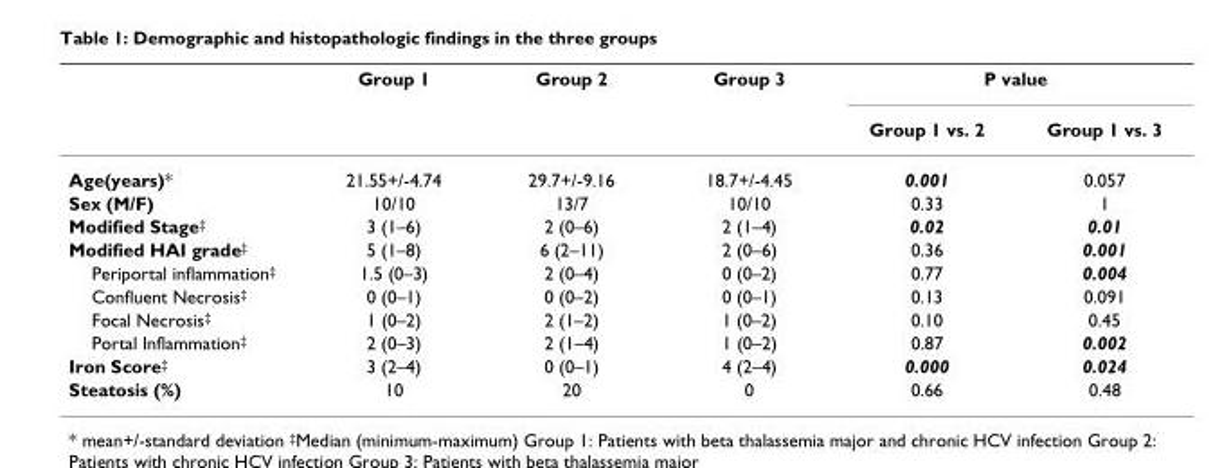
<table><thead><tr><td rowspan="2"></td><td rowspan="2">Group 1</td><td rowspan="2">Group 2</td><td rowspan="2">Group 3</td><td colspan="2">P value</td></tr><tr><td>Group 1 vs. 2</td><td>Group 1 vs. 3</td></tr></thead><tbody><tr><td>Age(years)*</td><td>21.55+/-4.74</td><td>29.7+/-9.16</td><td>18.7+/-4.45</td><td>0.001</td><td>0.057</td></tr><tr><td>Sex (M/F)</td><td>10/10</td><td>13/7</td><td>10/10</td><td>0.33</td><td>1</td></tr><tr><td>Modified Stage<sup>‡</sup></td><td>3 (1–6)</td><td>2 (0–6)</td><td>2 (1–4)</td><td>0.02</td><td>0.01</td></tr><tr><td>Modified HAI grade<sup>‡</sup></td><td>5 (1–8)</td><td>6 (2–11)</td><td>2 (0–6)</td><td>0.36</td><td>0.001</td></tr><tr><td>Periportal inflammation<sup>‡</sup></td><td>1.5 (0–3)</td><td>2 (0–4)</td><td>0 (0–2)</td><td>0.77</td><td>0.004</td></tr><tr><td>Confluent Necrosis<sup>‡</sup></td><td>0 (0–1)</td><td>0 (0–2)</td><td>0 (0–1)</td><td>0.13</td><td>0.091</td></tr><tr><td>Focal Necrosis<sup>‡</sup></td><td>1 (0–2)</td><td>2 (1–2)</td><td>1 (0–2)</td><td>0.10</td><td>0.45</td></tr><tr><td>Portal Inflammation<sup>‡</sup></td><td>2 (0–3)</td><td>2 (1–4)</td><td>1 (0–2)</td><td>0.87</td><td>0.002</td></tr><tr><td>Iron Score<sup>‡</sup></td><td>3 (2–4)</td><td>0 (0–1)</td><td>4 (2–4)</td><td>0.000</td><td>0.024</td></tr><tr><td>Steatosis (%)</td><td>10</td><td>20</td><td>0</td><td>0.66</td><td>0.48</td></tr></tbody></table>